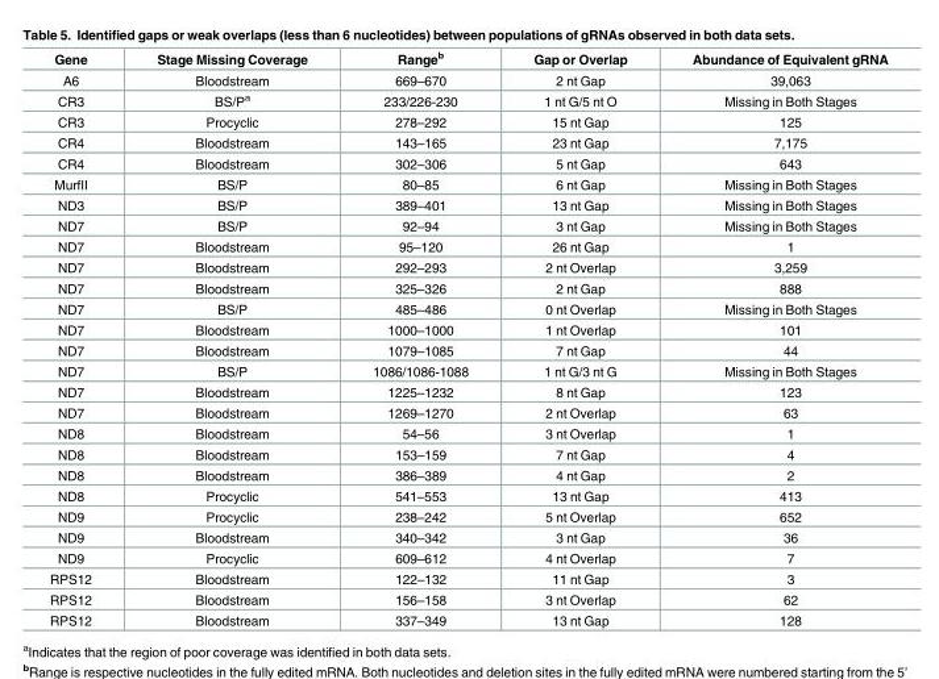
<table><thead><tr><td>Gene</td><td>Stage Missing Coverage</td><td>Range<sup>b</sup></td><td>Gap or Overlap</td><td>Abundance of Equivalent gRNA</td></tr></thead><tbody><tr><td>A6</td><td>Bloodstream</td><td>669–670</td><td>2 nt Gap</td><td>39,063</td></tr><tr><td>CR3</td><td>BS/P<sup>a</sup></td><td>233/226-230</td><td>1 nt G/5 nt O</td><td>Missing in Both Stages</td></tr><tr><td>CR3</td><td>Procyclic</td><td>278–292</td><td>15 nt Gap</td><td>125</td></tr><tr><td>CR4</td><td>Bloodstream</td><td>143–165</td><td>23 nt Gap</td><td>7,175</td></tr><tr><td>CR4</td><td>Bloodstream</td><td>302–306</td><td>5 nt Gap</td><td>643</td></tr><tr><td>MurfII</td><td>BS/P</td><td>80–85</td><td>6 nt Gap</td><td>Missing in Both Stages</td></tr><tr><td>ND3</td><td>BS/P</td><td>389–401</td><td>13 nt Gap</td><td>Missing in Both Stages</td></tr><tr><td>ND7</td><td>BS/P</td><td>92–94</td><td>3 nt Gap</td><td>Missing in Both Stages</td></tr><tr><td>ND7</td><td>Bloodstream</td><td>95–120</td><td>26 nt Gap</td><td>1</td></tr><tr><td>ND7</td><td>Bloodstream</td><td>292–293</td><td>2 nt Overlap</td><td>3,259</td></tr><tr><td>ND7</td><td>Bloodstream</td><td>325–326</td><td>2 nt Gap</td><td>888</td></tr><tr><td>ND7</td><td>BS/P</td><td>485–486</td><td>0 nt Overlap</td><td>Missing in Both Stages</td></tr><tr><td>ND7</td><td>Bloodstream</td><td>1000–1000</td><td>1 nt Overlap</td><td>101</td></tr><tr><td>ND7</td><td>Bloodstream</td><td>1079–1085</td><td>7 nt Gap</td><td>44</td></tr><tr><td>ND7</td><td>BS/P</td><td>1086/1086-1088</td><td>1 nt G/3 nt G</td><td>Missing in Both Stages</td></tr><tr><td>ND7</td><td>Bloodstream</td><td>1225–1232</td><td>8 nt Gap</td><td>123</td></tr><tr><td>ND7</td><td>Bloodstream</td><td>1269–1270</td><td>2 nt Overlap</td><td>63</td></tr><tr><td>ND8</td><td>Bloodstream</td><td>54–56</td><td>3 nt Overlap</td><td>1</td></tr><tr><td>ND8</td><td>Bloodstream</td><td>153–159</td><td>7 nt Gap</td><td>4</td></tr><tr><td>ND8</td><td>Bloodstream</td><td>386–389</td><td>4 nt Gap</td><td>2</td></tr><tr><td>ND8</td><td>Procyclic</td><td>541–553</td><td>13 nt Gap</td><td>413</td></tr><tr><td>ND9</td><td>Procyclic</td><td>238–242</td><td>5 nt Overlap</td><td>652</td></tr><tr><td>ND9</td><td>Bloodstream</td><td>340–342</td><td>3 nt Gap</td><td>36</td></tr><tr><td>ND9</td><td>Procyclic</td><td>609–612</td><td>4 nt Overlap</td><td>7</td></tr><tr><td>RPS12</td><td>Bloodstream</td><td>122–132</td><td>11 nt Gap</td><td>3</td></tr><tr><td>RPS12</td><td>Bloodstream</td><td>156–158</td><td>3 nt Overlap</td><td>62</td></tr><tr><td>RPS12</td><td>Bloodstream</td><td>337–349</td><td>13 nt Gap</td><td>128</td></tr></tbody></table>